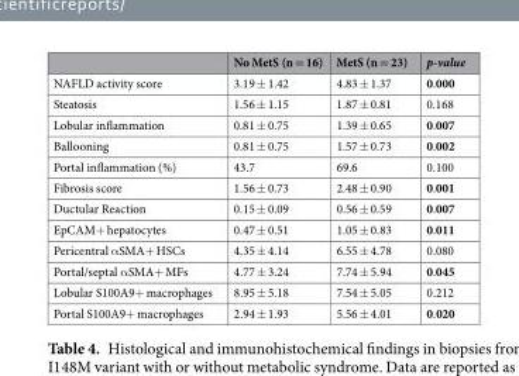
<table><thead><tr><td></td><td>No MetS (n = 16)</td><td>MetS (n = 23)</td><td>p-value</td></tr></thead><tbody><tr><td>NAFLD activity score</td><td>3.19 ± 1.42</td><td>4.83 ± 1.37</td><td>0.000</td></tr><tr><td>Steatosis</td><td>1.56 ± 1.15</td><td>1.87 ± 0.81</td><td>0.168</td></tr><tr><td>Lobular inflammation</td><td>0.81 ± 0.75</td><td>1.39 ± 0.65</td><td>0.007</td></tr><tr><td>Ballooning</td><td>0.81 ± 0.75</td><td>1.57 ± 0.73</td><td>0.002</td></tr><tr><td>Portal inflammation (%)</td><td>43.7</td><td>69.6</td><td>0.100</td></tr><tr><td>Fibrosis score</td><td>1.56 ± 0.73</td><td>2.48 ± 0.90</td><td>0.001</td></tr><tr><td>Ductular Reaction</td><td>0.15 ± 0.09</td><td>0.56 ± 0.59</td><td>0.007</td></tr><tr><td>EpCAM+ hepatocytes</td><td>0.47 ± 0.51</td><td>1.05 ± 0.83</td><td>0.011</td></tr><tr><td>Pericentral αSMA+ HSCs</td><td>4.35 ± 4.14</td><td>6.55 ± 4.78</td><td>0.080</td></tr><tr><td>Portal/septal αSMA+ MFs</td><td>4.77 ± 3.24</td><td>7.74 ± 5.94</td><td>0.045</td></tr><tr><td>Lobular S100A9+ macrophages</td><td>8.95 ± 5.18</td><td>7.54 ± 5.05</td><td>0.212</td></tr><tr><td>Portal S100A9+ macrophages</td><td>2.94 ± 1.93</td><td>5.56 ± 4.01</td><td>0.020</td></tr></tbody></table>